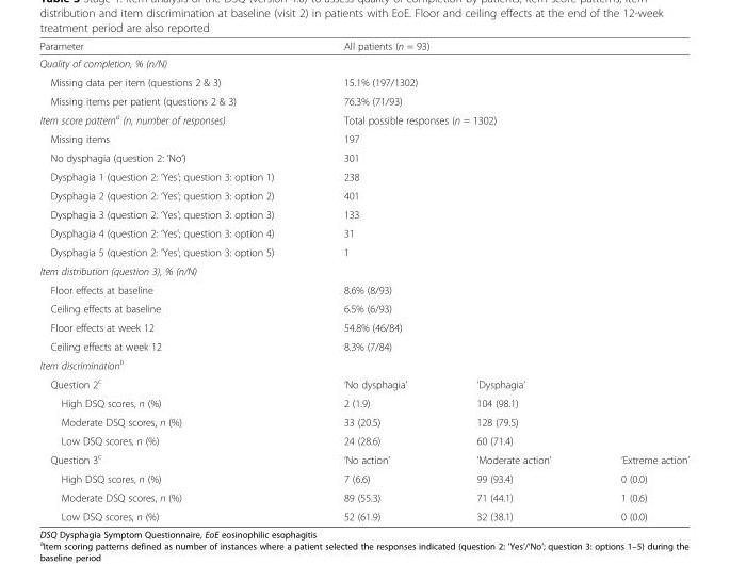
<table><thead><tr><td>Parameter</td><td colspan="3">All patients (n = 93)</td></tr></thead><tbody><tr><td colspan="4">Quality of completion, % (n/N)</td></tr><tr><td>Missing data per item (questions 2 &amp; 3)</td><td colspan="3">15.1% (197/1302)</td></tr><tr><td>Missing items per patient (questions 2 &amp; 3)</td><td colspan="3">76.3% (71/93)</td></tr><tr><td>Item score pattern<sup>a</sup> (n, number of responses)</td><td colspan="3">Total possible responses (n = 1302)</td></tr><tr><td>Missing items</td><td colspan="3">197</td></tr><tr><td>No dysphagia (question 2: ‘No’)</td><td colspan="3">301</td></tr><tr><td>Dysphagia 1 (question 2: ‘Yes’; question 3: option 1)</td><td colspan="3">238</td></tr><tr><td>Dysphagia 2 (question 2: ‘Yes’; question 3: option 2)</td><td colspan="3">401</td></tr><tr><td>Dysphagia 3 (question 2: ‘Yes’; question 3: option 3)</td><td colspan="3">133</td></tr><tr><td>Dysphagia 4 (question 2: ‘Yes’; question 3: option 4)</td><td colspan="3">31</td></tr><tr><td>Dysphagia 5 (question 2: ‘Yes’; question 3: option 5)</td><td colspan="3">1</td></tr><tr><td colspan="4">Item distribution (question 3), % (n/N)</td></tr><tr><td>Floor effects at baseline</td><td colspan="3">8.6% (8/93)</td></tr><tr><td>Ceiling effects at baseline</td><td colspan="3">6.5% (6/93)</td></tr><tr><td>Floor effects at week 12</td><td colspan="3">54.8% (46/84)</td></tr><tr><td>Ceiling effects at week 12</td><td colspan="3">8.3% (7/84)</td></tr><tr><td colspan="4">Item discrimination<sup>b</sup></td></tr><tr><td>Question 2<sup>c</sup></td><td>‘No dysphagia’</td><td colspan="2">‘Dysphagia’</td></tr><tr><td>High DSQ scores, n (%)</td><td>2 (1.9)</td><td colspan="2">104 (98.1)</td></tr><tr><td>Moderate DSQ scores, n (%)</td><td>33 (20.5)</td><td colspan="2">128 (79.5)</td></tr><tr><td>Low DSQ scores, n (%)</td><td>24 (28.6)</td><td colspan="2">60 (71.4)</td></tr><tr><td>Question 3<sup>c</sup></td><td>‘No action’</td><td>‘Moderate action’</td><td>‘Extreme action’</td></tr><tr><td>High DSQ scores, n (%)</td><td>7 (6.6)</td><td>99 (93.4)</td><td>0 (0.0)</td></tr><tr><td>Moderate DSQ scores, n (%)</td><td>89 (55.3)</td><td>71 (44.1)</td><td>1 (0.6)</td></tr><tr><td>Low DSQ scores, n (%)</td><td>52 (61.9)</td><td>32 (38.1)</td><td>0 (0.0)</td></tr></tbody></table>